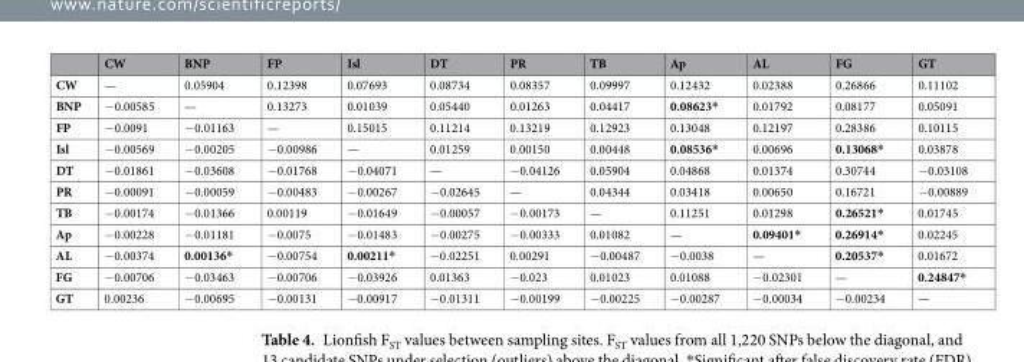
<table><thead><tr><td></td><td>CW</td><td>BNP</td><td>FP</td><td>Isl</td><td>DT</td><td>PR</td><td>TB</td><td>Ap</td><td>AL</td><td>FG</td><td>GT</td></tr></thead><tbody><tr><td>CW</td><td>—</td><td>0.05904</td><td>0.12398</td><td>0.07693</td><td>0.08734</td><td>0.08357</td><td>0.09997</td><td>0.12432</td><td>0.02388</td><td>0.26866</td><td>0.11102</td></tr><tr><td>BNP</td><td>−0.00585</td><td>—</td><td>0.13273</td><td>0.01039</td><td>0.05440</td><td>0.01263</td><td>0.04417</td><td>0.08623*</td><td>0.01792</td><td>0.08177</td><td>0.05091</td></tr><tr><td>FP</td><td>−0.0091</td><td>−0.01163</td><td>—</td><td>0.15015</td><td>0.11214</td><td>0.13219</td><td>0.12923</td><td>0.13048</td><td>0.12197</td><td>0.28386</td><td>0.10115</td></tr><tr><td>Isl</td><td>−0.00569</td><td>−0.00205</td><td>−0.00986</td><td>—</td><td>0.01259</td><td>0.00150</td><td>0.00448</td><td>0.08536*</td><td>0.00696</td><td>0.13068*</td><td>0.03878</td></tr><tr><td>DT</td><td>−0.01861</td><td>−0.03608</td><td>−0.01768</td><td>−0.04071</td><td>—</td><td>−0.04126</td><td>0.05904</td><td>0.04868</td><td>0.01374</td><td>0.30744</td><td>−0.03108</td></tr><tr><td>PR</td><td>−0.00091</td><td>−0.00059</td><td>−0.00483</td><td>−0.00267</td><td>−0.02645</td><td>—</td><td>0.04344</td><td>0.03418</td><td>0.00650</td><td>0.16721</td><td>−0.00889</td></tr><tr><td>TB</td><td>−0.00174</td><td>−0.01366</td><td>0.00119</td><td>−0.01649</td><td>−0.00057</td><td>−0.00173</td><td>—</td><td>0.11251</td><td>0.01298</td><td>0.26521*</td><td>0.01745</td></tr><tr><td>Ap</td><td>−0.00228</td><td>−0.01181</td><td>−0.0075</td><td>−0.01483</td><td>−0.00275</td><td>−0.00333</td><td>0.01082</td><td>—</td><td>0.09401*</td><td>0.26914*</td><td>0.02245</td></tr><tr><td>AL</td><td>−0.00374</td><td>0.00136*</td><td>−0.00754</td><td>0.00211*</td><td>−0.02251</td><td>0.00291</td><td>−0.00487</td><td>−0.0038</td><td>—</td><td>0.20537*</td><td>0.01672</td></tr><tr><td>FG</td><td>−0.00706</td><td>−0.03463</td><td>−0.00706</td><td>−0.03926</td><td>0.01363</td><td>−0.023</td><td>0.01023</td><td>0.01088</td><td>−0.02301</td><td>—</td><td>0.24847*</td></tr><tr><td>GT</td><td>0.00236</td><td>−0.00695</td><td>−0.00131</td><td>−0.00917</td><td>−0.01311</td><td>−0.00199</td><td>−0.00225</td><td>−0.00287</td><td>−0.00034</td><td>−0.00234</td><td>—</td></tr></tbody></table>